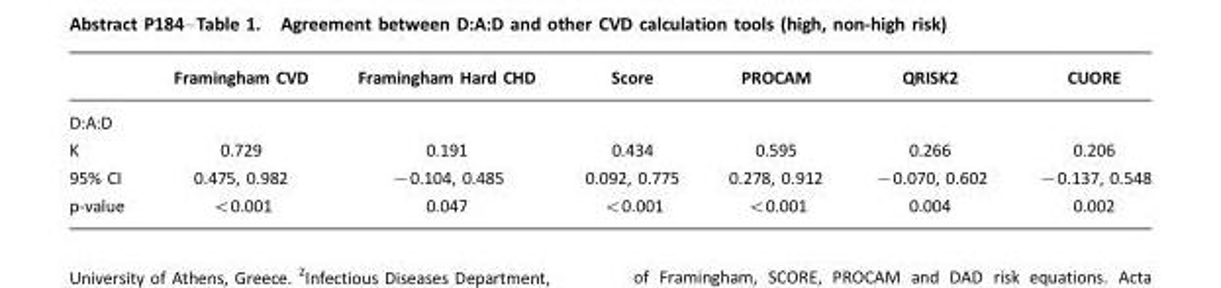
<table><thead><tr><td></td><td>Framingham CVD</td><td>Framingham Hard CHD</td><td>Score</td><td>PROCAM</td><td>QRISK2</td><td>CUORE</td></tr></thead><tbody><tr><td colspan="7">D:A:D</td></tr><tr><td>K</td><td>0.729</td><td>0.191</td><td>0.434</td><td>0.595</td><td>0.266</td><td>0.206</td></tr><tr><td>95% CI</td><td>0.475, 0.982</td><td>−0.104, 0.485</td><td>0.092, 0.775</td><td>0.278, 0.912</td><td>−0.070, 0.602</td><td>−0.137, 0.548</td></tr><tr><td>p-value</td><td>&lt;0.001</td><td>0.047</td><td>&lt;0.001</td><td>&lt;0.001</td><td>0.004</td><td>0.002</td></tr></tbody></table>